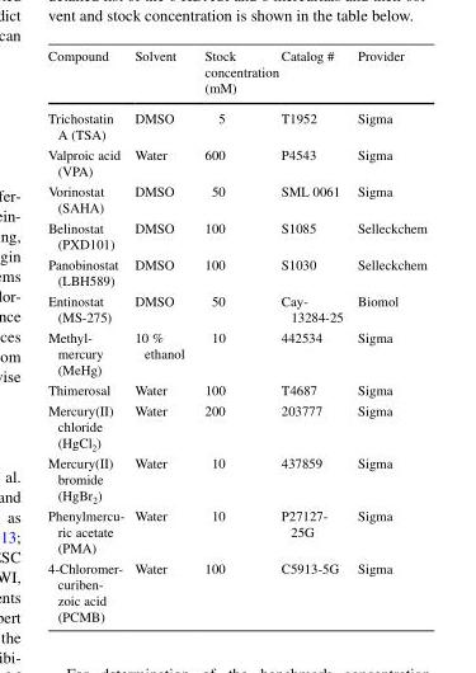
<table><thead><tr><td>Compound</td><td>Solvent</td><td>Stock concentration (mM)</td><td>Catalog #</td><td>Provider</td></tr></thead><tbody><tr><td>Trichostatin A (TSA)</td><td>DMSO</td><td>5</td><td>T1952</td><td>Sigma</td></tr><tr><td>Valproic acid (VPA)</td><td>Water</td><td>600</td><td>P4543</td><td>Sigma</td></tr><tr><td>Vorinostat (SAHA)</td><td>DMSO</td><td>50</td><td>SML 0061</td><td>Sigma</td></tr><tr><td>Belinostat (PXD101)</td><td>DMSO</td><td>100</td><td>S1085</td><td>Selleckchem</td></tr><tr><td>Panobinostat (LBH589)</td><td>DMSO</td><td>100</td><td>S1030</td><td>Selleckchem</td></tr><tr><td>Entinostat (MS-275)</td><td>DMSO</td><td>50</td><td>Cay- 13284-25</td><td>Biomol</td></tr><tr><td>Methyl- mercury (MeHg)</td><td>10 % ethanol</td><td>10</td><td>442534</td><td>Sigma</td></tr><tr><td>Thimerosal</td><td>Water</td><td>100</td><td>T4687</td><td>Sigma</td></tr><tr><td>Mercury(II) chloride (HgCl<sub>2</sub>)</td><td>Water</td><td>200</td><td>203777</td><td>Sigma</td></tr><tr><td>Mercury(II) bromide (HgBr<sub>2</sub>)</td><td>Water</td><td>10</td><td>437859</td><td>Sigma</td></tr><tr><td>Phenylmercu- ric acetate (PMA)</td><td>Water</td><td>10</td><td>P27127- 25G</td><td>Sigma</td></tr><tr><td>4-Chloromer- curiben- zoic acid (PCMB)</td><td>Water</td><td>100</td><td>C5913-5G</td><td>Sigma</td></tr></tbody></table>